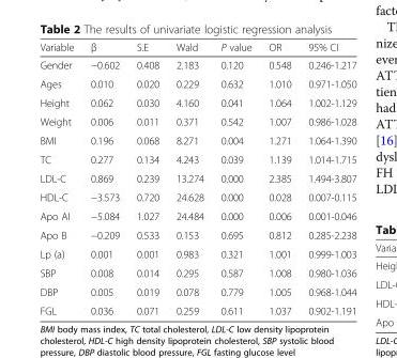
<table><thead><tr><td>Variable</td><td>β</td><td>S.E</td><td>Wald</td><td>P value</td><td>OR</td><td>95% CI</td></tr></thead><tbody><tr><td>Gender</td><td>−0.602</td><td>0.408</td><td>2.183</td><td>0.120</td><td>0.548</td><td>0.246-1.217</td></tr><tr><td>Ages</td><td>0.010</td><td>0.020</td><td>0.229</td><td>0.632</td><td>1.010</td><td>0.971-1.050</td></tr><tr><td>Height</td><td>0.062</td><td>0.030</td><td>4.160</td><td>0.041</td><td>1.064</td><td>1.002-1.129</td></tr><tr><td>Weight</td><td>0.006</td><td>0.011</td><td>0.371</td><td>0.542</td><td>1.007</td><td>0.986-1.028</td></tr><tr><td>BMI</td><td>0.196</td><td>0.068</td><td>8.271</td><td>0.004</td><td>1.271</td><td>1.064-1.390</td></tr><tr><td>TC</td><td>0.277</td><td>0.134</td><td>4.243</td><td>0.039</td><td>1.139</td><td>1.014-1.715</td></tr><tr><td>LDL-C</td><td>0.869</td><td>0.239</td><td>13.274</td><td>0.000</td><td>2.385</td><td>1.494-3.807</td></tr><tr><td>HDL-C</td><td>−3.573</td><td>0.720</td><td>24.628</td><td>0.000</td><td>0.028</td><td>0.007-0.115</td></tr><tr><td>Apo AI</td><td>−5.084</td><td>1.027</td><td>24.484</td><td>0.000</td><td>0.006</td><td>0.001-0.046</td></tr><tr><td>Apo B</td><td>−0.209</td><td>0.533</td><td>0.153</td><td>0.695</td><td>0.812</td><td>0.285-2.238</td></tr><tr><td>Lp (a)</td><td>0.001</td><td>0.001</td><td>0.983</td><td>0.321</td><td>1.001</td><td>0.999-1.003</td></tr><tr><td>SBP</td><td>0.008</td><td>0.014</td><td>0.295</td><td>0.587</td><td>1.008</td><td>0.980-1.036</td></tr><tr><td>DBP</td><td>0.005</td><td>0.019</td><td>0.078</td><td>0.779</td><td>1.005</td><td>0.968-1.044</td></tr><tr><td>FGL</td><td>0.036</td><td>0.071</td><td>0.259</td><td>0.611</td><td>1.037</td><td>0.902-1.191</td></tr></tbody></table>